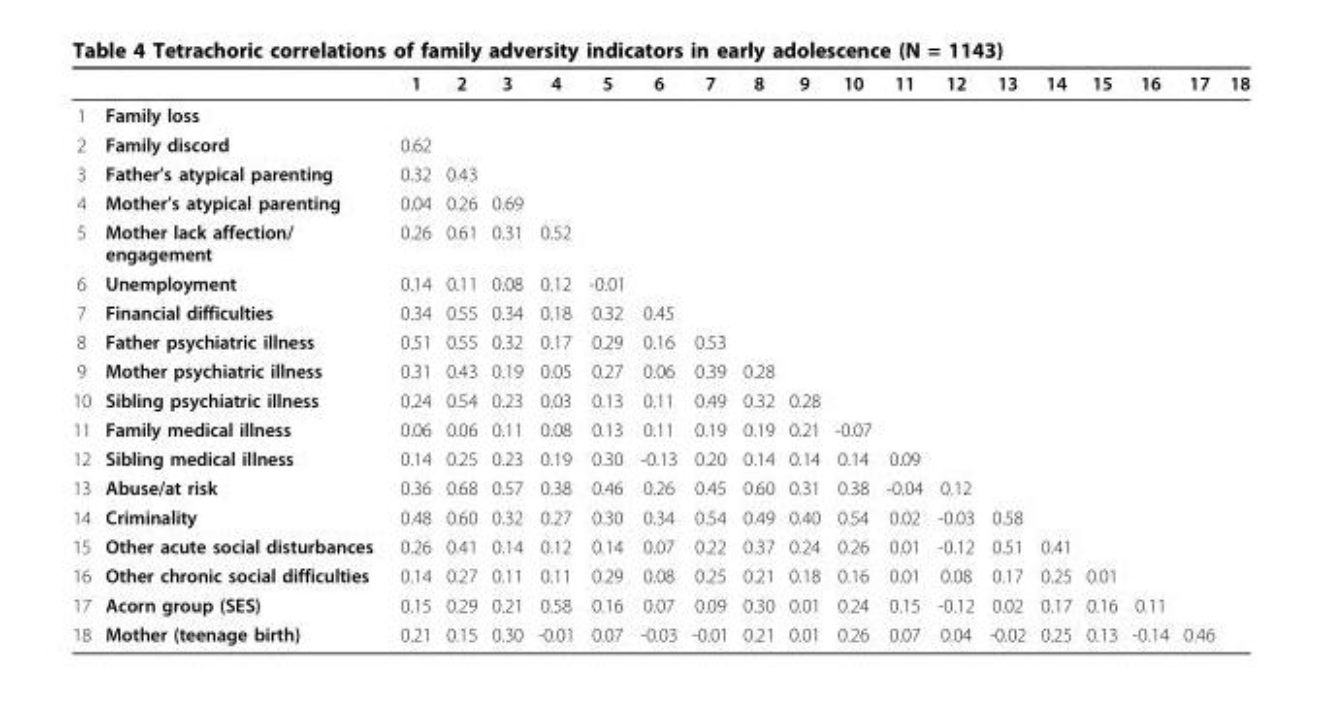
<table><thead><tr><td></td><td></td><td>1</td><td>2</td><td>3</td><td>4</td><td>5</td><td>6</td><td>7</td><td>8</td><td>9</td><td>10</td><td>11</td><td>12</td><td>13</td><td>14</td><td>15</td><td>16</td><td>17</td><td>18</td></tr></thead><tbody><tr><td>1</td><td>Family loss</td><td></td><td></td><td></td><td></td><td></td><td></td><td></td><td></td><td></td><td></td><td></td><td></td><td></td><td></td><td></td><td></td><td></td><td></td></tr><tr><td>2</td><td>Family discord</td><td>0.62</td><td></td><td></td><td></td><td></td><td></td><td></td><td></td><td></td><td></td><td></td><td></td><td></td><td></td><td></td><td></td><td></td><td></td></tr><tr><td>3</td><td>Father’s atypical parenting</td><td>0.32</td><td>0.43</td><td></td><td></td><td></td><td></td><td></td><td></td><td></td><td></td><td></td><td></td><td></td><td></td><td></td><td></td><td></td><td></td></tr><tr><td>4</td><td>Mother’s atypical parenting</td><td>0.04</td><td>0.26</td><td>0.69</td><td></td><td></td><td></td><td></td><td></td><td></td><td></td><td></td><td></td><td></td><td></td><td></td><td></td><td></td><td></td></tr><tr><td>5</td><td>Mother lack affection/ engagement</td><td>0.26</td><td>0.61</td><td>0.31</td><td>0.52</td><td></td><td></td><td></td><td></td><td></td><td></td><td></td><td></td><td></td><td></td><td></td><td></td><td></td><td></td></tr><tr><td>6</td><td>Unemployment</td><td>0.14</td><td>0.11</td><td>0.08</td><td>0.12</td><td>-0.01</td><td></td><td></td><td></td><td></td><td></td><td></td><td></td><td></td><td></td><td></td><td></td><td></td><td></td></tr><tr><td>7</td><td>Financial difficulties</td><td>0.34</td><td>0.55</td><td>0.34</td><td>0.18</td><td>0.32</td><td>0.45</td><td></td><td></td><td></td><td></td><td></td><td></td><td></td><td></td><td></td><td></td><td></td><td></td></tr><tr><td>8</td><td>Father psychiatric illness</td><td>0.51</td><td>0.55</td><td>0.32</td><td>0.17</td><td>0.29</td><td>0.16</td><td>0.53</td><td></td><td></td><td></td><td></td><td></td><td></td><td></td><td></td><td></td><td></td><td></td></tr><tr><td>9</td><td>Mother psychiatric illness</td><td>0.31</td><td>0.43</td><td>0.19</td><td>0.05</td><td>0.27</td><td>0.06</td><td>0.39</td><td>0.28</td><td></td><td></td><td></td><td></td><td></td><td></td><td></td><td></td><td></td><td></td></tr><tr><td>10</td><td>Sibling psychiatric illness</td><td>0.24</td><td>0.54</td><td>0.23</td><td>0.03</td><td>0.13</td><td>0.11</td><td>0.49</td><td>0.32</td><td>0.28</td><td></td><td></td><td></td><td></td><td></td><td></td><td></td><td></td><td></td></tr><tr><td>11</td><td>Family medical illness</td><td>0.06</td><td>0.06</td><td>0.11</td><td>0.08</td><td>0.13</td><td>0.11</td><td>0.19</td><td>0.19</td><td>0.21</td><td>-0.07</td><td></td><td></td><td></td><td></td><td></td><td></td><td></td><td></td></tr><tr><td>12</td><td>Sibling medical illness</td><td>0.14</td><td>0.25</td><td>0.23</td><td>0.19</td><td>0.30</td><td>-0.13</td><td>0.20</td><td>0.14</td><td>0.14</td><td>0.14</td><td>0.09</td><td></td><td></td><td></td><td></td><td></td><td></td><td></td></tr><tr><td>13</td><td>Abuse/at risk</td><td>0.36</td><td>0.68</td><td>0.57</td><td>0.38</td><td>0.46</td><td>0.26</td><td>0.45</td><td>0.60</td><td>0.31</td><td>0.38</td><td>-0.04</td><td>0.12</td><td></td><td></td><td></td><td></td><td></td><td></td></tr><tr><td>14</td><td>Criminality</td><td>0.48</td><td>0.60</td><td>0.32</td><td>0.27</td><td>0.30</td><td>0.34</td><td>0.54</td><td>0.49</td><td>0.40</td><td>0.54</td><td>0.02</td><td>-0.03</td><td>0.58</td><td></td><td></td><td></td><td></td><td></td></tr><tr><td>15</td><td>Other acute social disturbances</td><td>0.26</td><td>0.41</td><td>0.14</td><td>0.12</td><td>0.14</td><td>0.07</td><td>0.22</td><td>0.37</td><td>0.24</td><td>0.26</td><td>0.01</td><td>-0.12</td><td>0.51</td><td>0.41</td><td></td><td></td><td></td><td></td></tr><tr><td>16</td><td>Other chronic social difficulties</td><td>0.14</td><td>0.27</td><td>0.11</td><td>0.11</td><td>0.29</td><td>0.08</td><td>0.25</td><td>0.21</td><td>0.18</td><td>0.16</td><td>0.01</td><td>0.08</td><td>0.17</td><td>0.25</td><td>0.01</td><td></td><td></td><td></td></tr><tr><td>17</td><td>Acorn group (SES)</td><td>0.15</td><td>0.29</td><td>0.21</td><td>0.58</td><td>0.16</td><td>0.07</td><td>0.09</td><td>0.30</td><td>0.01</td><td>0.24</td><td>0.15</td><td>-0.12</td><td>0.02</td><td>0.17</td><td>0.16</td><td>0.11</td><td></td><td></td></tr><tr><td>18</td><td>Mother (teenage birth)</td><td>0.21</td><td>0.15</td><td>0.30</td><td>-0.01</td><td>0.07</td><td>-0.03</td><td>-0.01</td><td>0.21</td><td>0.01</td><td>0.26</td><td>0.07</td><td>0.04</td><td>-0.02</td><td>0.25</td><td>0.13</td><td>-0.14</td><td>0.46</td><td></td></tr></tbody></table>